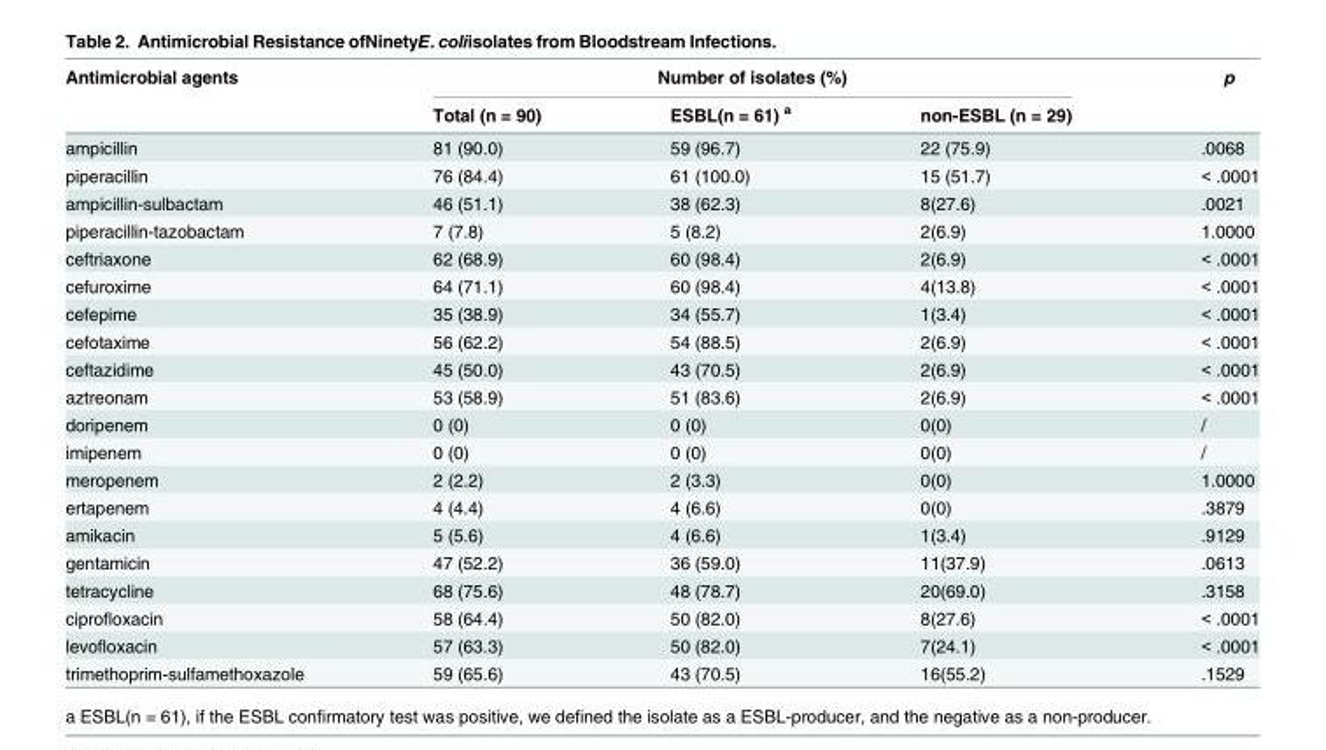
<table><thead><tr><td rowspan="2">Antimicrobial agents</td><td colspan="3">Number of isolates (%)</td><td rowspan="2">p</td></tr><tr><td>Total (n = 90)</td><td>ESBL(n = 61) <sup>a</sup></td><td>non-ESBL (n = 29)</td></tr></thead><tbody><tr><td>ampicillin</td><td>81 (90.0)</td><td>59 (96.7)</td><td>22 (75.9)</td><td>.0068</td></tr><tr><td>piperacillin</td><td>76 (84.4)</td><td>61 (100.0)</td><td>15 (51.7)</td><td>&lt; .0001</td></tr><tr><td>ampicillin-sulbactam</td><td>46 (51.1)</td><td>38 (62.3)</td><td>8(27.6)</td><td>.0021</td></tr><tr><td>piperacillin-tazobactam</td><td>7 (7.8)</td><td>5 (8.2)</td><td>2(6.9)</td><td>1.0000</td></tr><tr><td>ceftriaxone</td><td>62 (68.9)</td><td>60 (98.4)</td><td>2(6.9)</td><td>&lt; .0001</td></tr><tr><td>cefuroxime</td><td>64 (71.1)</td><td>60 (98.4)</td><td>4(13.8)</td><td>&lt; .0001</td></tr><tr><td>cefepime</td><td>35 (38.9)</td><td>34 (55.7)</td><td>1(3.4)</td><td>&lt; .0001</td></tr><tr><td>cefotaxime</td><td>56 (62.2)</td><td>54 (88.5)</td><td>2(6.9)</td><td>&lt; .0001</td></tr><tr><td>ceftazidime</td><td>45 (50.0)</td><td>43 (70.5)</td><td>2(6.9)</td><td>&lt; .0001</td></tr><tr><td>aztreonam</td><td>53 (58.9)</td><td>51 (83.6)</td><td>2(6.9)</td><td>&lt; .0001</td></tr><tr><td>doripenem</td><td>0 (0)</td><td>0 (0)</td><td>0(0)</td><td>/</td></tr><tr><td>imipenem</td><td>0 (0)</td><td>0 (0)</td><td>0(0)</td><td>/</td></tr><tr><td>meropenem</td><td>2 (2.2)</td><td>2 (3.3)</td><td>0(0)</td><td>1.0000</td></tr><tr><td>ertapenem</td><td>4 (4.4)</td><td>4 (6.6)</td><td>0(0)</td><td>.3879</td></tr><tr><td>amikacin</td><td>5 (5.6)</td><td>4 (6.6)</td><td>1(3.4)</td><td>.9129</td></tr><tr><td>gentamicin</td><td>47 (52.2)</td><td>36 (59.0)</td><td>11(37.9)</td><td>.0613</td></tr><tr><td>tetracycline</td><td>68 (75.6)</td><td>48 (78.7)</td><td>20(69.0)</td><td>.3158</td></tr><tr><td>ciprofloxacin</td><td>58 (64.4)</td><td>50 (82.0)</td><td>8(27.6)</td><td>&lt; .0001</td></tr><tr><td>levofloxacin</td><td>57 (63.3)</td><td>50 (82.0)</td><td>7(24.1)</td><td>&lt; .0001</td></tr><tr><td>trimethoprim-sulfamethoxazole</td><td>59 (65.6)</td><td>43 (70.5)</td><td>16(55.2)</td><td>.1529</td></tr></tbody></table>